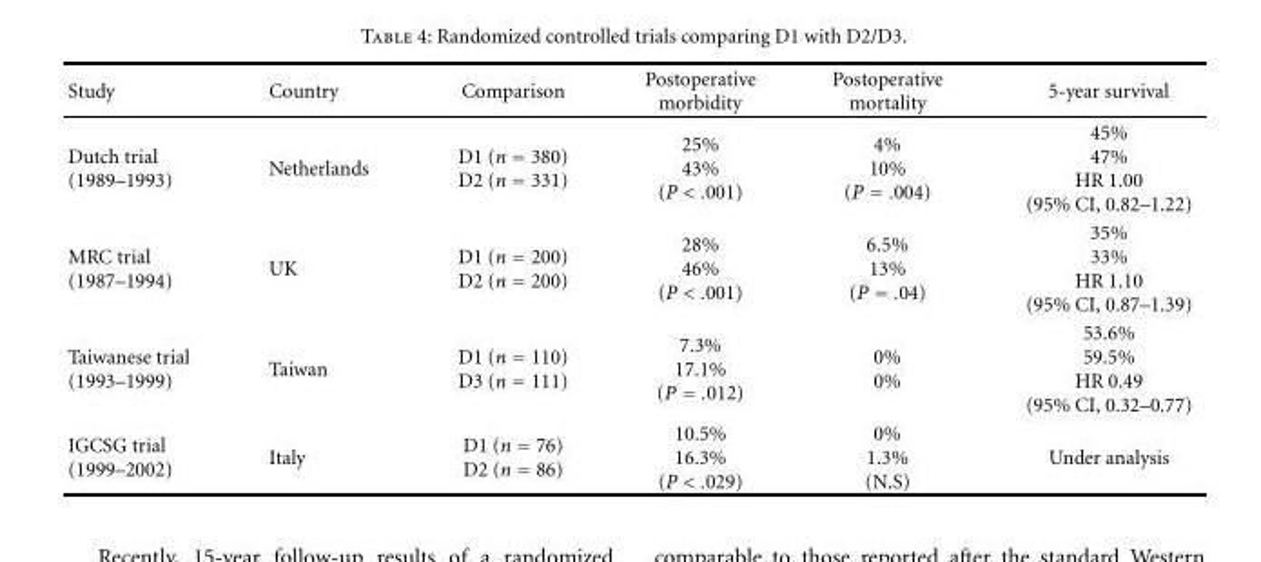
<table><thead><tr><td>Study</td><td>Country</td><td>Comparison</td><td>Postoperative morbidity</td><td>Postoperative mortality</td><td>5-year survival</td></tr></thead><tbody><tr><td>Dutch trial (1989–1993)</td><td>Netherlands</td><td>D1 (n = 380) D2 (n = 331)</td><td>25% 43% (P &lt; .001)</td><td>4% 10% (P = .004)</td><td>45% 47% HR 1.00 (95% CI, 0.82–1.22)</td></tr><tr><td>MRC trial (1987–1994)</td><td>UK</td><td>D1 (n = 200) D2 (n = 200)</td><td>28% 46% (P &lt; .001)</td><td>6.5% 13% (P = .04)</td><td>35% 33% HR 1.10 (95% CI, 0.87–1.39)</td></tr><tr><td>Taiwanese trial (1993–1999)</td><td>Taiwan</td><td>D1 (n = 110) D3 (n = 111)</td><td>7.3% 17.1% (P = .012)</td><td>0% 0%</td><td>53.6% 59.5% HR 0.49 (95% CI, 0.32–0.77)</td></tr><tr><td>IGCSG trial (1999–2002)</td><td>Italy</td><td>D1 (n = 76) D2 (n = 86)</td><td>10.5% 16.3% (P &lt; .029)</td><td>0% 1.3% (N.S)</td><td>Under analysis</td></tr></tbody></table>